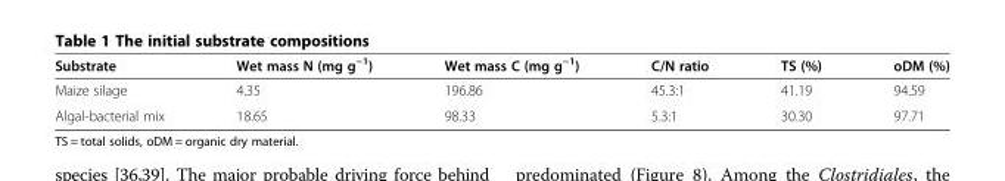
<table><thead><tr><td>Substrate</td><td>Wet mass N (mg g<sup>−1</sup>)</td><td>Wet mass C (mg g<sup>−1</sup>)</td><td>C/N ratio</td><td>TS (%)</td><td>oDM (%)</td></tr></thead><tbody><tr><td>Maize silage</td><td>4.35</td><td>196.86</td><td>45.3:1</td><td>41.19</td><td>94.59</td></tr><tr><td>Algal-bacterial mix</td><td>18.65</td><td>98.33</td><td>5.3:1</td><td>30.30</td><td>97.71</td></tr></tbody></table>